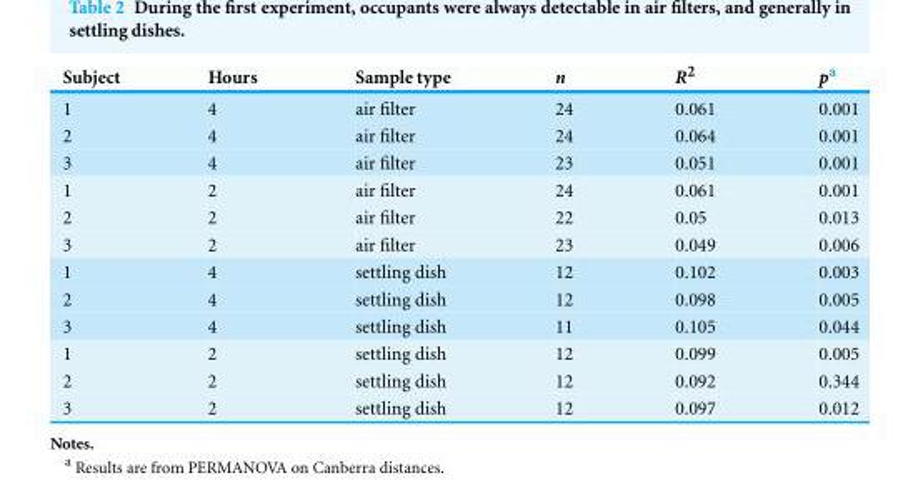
<table><thead><tr><td>Subject</td><td>Hours</td><td>Sample type</td><td>n</td><td>R<sup>2</sup></td><td>p<sup>a</sup></td></tr></thead><tbody><tr><td>1</td><td>4</td><td>air filter</td><td>24</td><td>0.061</td><td>0.001</td></tr><tr><td>2</td><td>4</td><td>air filter</td><td>24</td><td>0.064</td><td>0.001</td></tr><tr><td>3</td><td>4</td><td>air filter</td><td>23</td><td>0.051</td><td>0.001</td></tr><tr><td>1</td><td>2</td><td>air filter</td><td>24</td><td>0.061</td><td>0.001</td></tr><tr><td>2</td><td>2</td><td>air filter</td><td>22</td><td>0.05</td><td>0.013</td></tr><tr><td>3</td><td>2</td><td>air filter</td><td>23</td><td>0.049</td><td>0.006</td></tr><tr><td>1</td><td>4</td><td>settling dish</td><td>12</td><td>0.102</td><td>0.003</td></tr><tr><td>2</td><td>4</td><td>settling dish</td><td>12</td><td>0.098</td><td>0.005</td></tr><tr><td>3</td><td>4</td><td>settling dish</td><td>11</td><td>0.105</td><td>0.044</td></tr><tr><td>1</td><td>2</td><td>settling dish</td><td>12</td><td>0.099</td><td>0.005</td></tr><tr><td>2</td><td>2</td><td>settling dish</td><td>12</td><td>0.092</td><td>0.344</td></tr><tr><td>3</td><td>2</td><td>settling dish</td><td>12</td><td>0.097</td><td>0.012</td></tr></tbody></table>